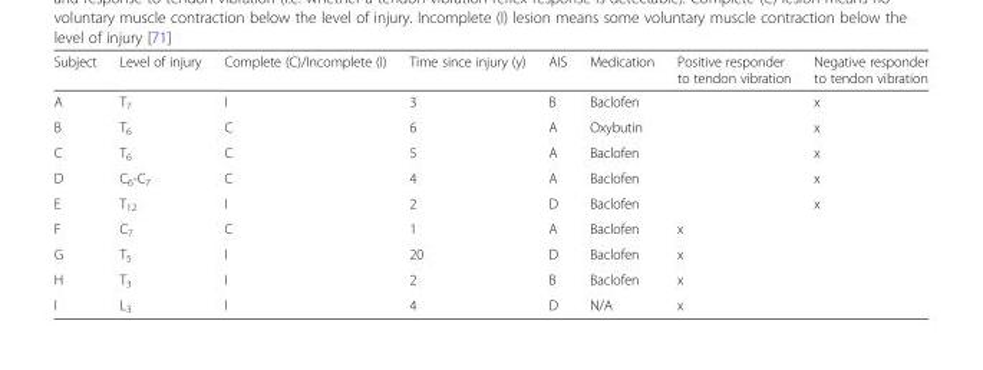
<table><thead><tr><td>Subject</td><td>Level of injury</td><td>Complete (C)/Incomplete (I)</td><td>Time since injury (y)</td><td>AIS</td><td>Medication</td><td>Positive responder to tendon vibration</td><td>Negative responder to tendon vibration</td></tr></thead><tbody><tr><td>A</td><td>T<sub>7</sub></td><td>I</td><td>3</td><td>B</td><td>Baclofen</td><td></td><td>x</td></tr><tr><td>B</td><td>T<sub>6</sub></td><td>C</td><td>6</td><td>A</td><td>Oxybutin</td><td></td><td>x</td></tr><tr><td>C</td><td>T<sub>6</sub></td><td>C</td><td>5</td><td>A</td><td>Baclofen</td><td></td><td>x</td></tr><tr><td>D</td><td>C<sub>6</sub>-C<sub>7</sub></td><td>C</td><td>4</td><td>A</td><td>Baclofen</td><td></td><td>x</td></tr><tr><td>E</td><td>T<sub>12</sub></td><td>I</td><td>2</td><td>D</td><td>Baclofen</td><td></td><td>x</td></tr><tr><td>F</td><td>C<sub>7</sub></td><td>C</td><td>1</td><td>A</td><td>Baclofen</td><td>x</td><td></td></tr><tr><td>G</td><td>T<sub>5</sub></td><td>I</td><td>20</td><td>D</td><td>Baclofen</td><td>x</td><td></td></tr><tr><td>H</td><td>T<sub>3</sub></td><td>I</td><td>2</td><td>B</td><td>Baclofen</td><td>x</td><td></td></tr><tr><td>I</td><td>L<sub>3</sub></td><td>I</td><td>4</td><td>D</td><td>N/A</td><td>x</td><td></td></tr></tbody></table>